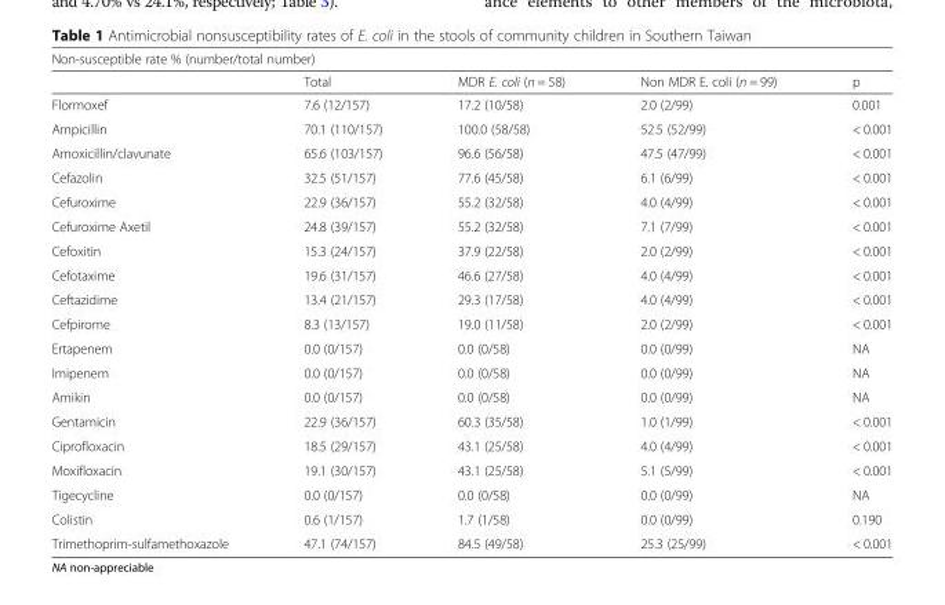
<table><thead><tr><td colspan="5">Non-susceptible rate % (number/total number)</td></tr><tr><td></td><td>Total</td><td>MDR E. coli (n = 58)</td><td>Non MDR E. coli (n = 99)</td><td>p</td></tr></thead><tbody><tr><td>Flormoxef</td><td>7.6 (12/157)</td><td>17.2 (10/58)</td><td>2.0 (2/99)</td><td>0.001</td></tr><tr><td>Ampicillin</td><td>70.1 (110/157)</td><td>100.0 (58/58)</td><td>52.5 (52/99)</td><td>&lt; 0.001</td></tr><tr><td>Amoxicillin/clavunate</td><td>65.6 (103/157)</td><td>96.6 (56/58)</td><td>47.5 (47/99)</td><td>&lt; 0.001</td></tr><tr><td>Cefazolin</td><td>32.5 (51/157)</td><td>77.6 (45/58)</td><td>6.1 (6/99)</td><td>&lt; 0.001</td></tr><tr><td>Cefuroxime</td><td>22.9 (36/157)</td><td>55.2 (32/58)</td><td>4.0 (4/99)</td><td>&lt; 0.001</td></tr><tr><td>Cefuroxime Axetil</td><td>24.8 (39/157)</td><td>55.2 (32/58)</td><td>7.1 (7/99)</td><td>&lt; 0.001</td></tr><tr><td>Cefoxitin</td><td>15.3 (24/157)</td><td>37.9 (22/58)</td><td>2.0 (2/99)</td><td>&lt; 0.001</td></tr><tr><td>Cefotaxime</td><td>19.6 (31/157)</td><td>46.6 (27/58)</td><td>4.0 (4/99)</td><td>&lt; 0.001</td></tr><tr><td>Ceftazidime</td><td>13.4 (21/157)</td><td>29.3 (17/58)</td><td>4.0 (4/99)</td><td>&lt; 0.001</td></tr><tr><td>Cefpirome</td><td>8.3 (13/157)</td><td>19.0 (11/58)</td><td>2.0 (2/99)</td><td>&lt; 0.001</td></tr><tr><td>Ertapenem</td><td>0.0 (0/157)</td><td>0.0 (0/58)</td><td>0.0 (0/99)</td><td>NA</td></tr><tr><td>Imipenem</td><td>0.0 (0/157)</td><td>0.0 (0/58)</td><td>0.0 (0/99)</td><td>NA</td></tr><tr><td>Amikin</td><td>0.0 (0/157)</td><td>0.0 (0/58)</td><td>0.0 (0/99)</td><td>NA</td></tr><tr><td>Gentamicin</td><td>22.9 (36/157)</td><td>60.3 (35/58)</td><td>1.0 (1/99)</td><td>&lt; 0.001</td></tr><tr><td>Ciprofloxacin</td><td>18.5 (29/157)</td><td>43.1 (25/58)</td><td>4.0 (4/99)</td><td>&lt; 0.001</td></tr><tr><td>Moxifloxacin</td><td>19.1 (30/157)</td><td>43.1 (25/58)</td><td>5.1 (5/99)</td><td>&lt; 0.001</td></tr><tr><td>Tigecycline</td><td>0.0 (0/157)</td><td>0.0 (0/58)</td><td>0.0 (0/99)</td><td>NA</td></tr><tr><td>Colistin</td><td>0.6 (1/157)</td><td>1.7 (1/58)</td><td>0.0 (0/99)</td><td>0.190</td></tr><tr><td>Trimethoprim-sulfamethoxazole</td><td>47.1 (74/157)</td><td>84.5 (49/58)</td><td>25.3 (25/99)</td><td>&lt; 0.001</td></tr></tbody></table>